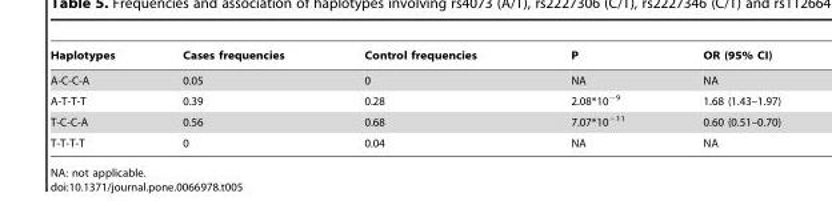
<table><thead><tr><td>Haplotypes</td><td>Cases frequencies</td><td>Control frequencies</td><td>P</td><td>OR (95% CI)</td></tr></thead><tbody><tr><td>A-C-C-A</td><td>0.05</td><td>0</td><td>NA</td><td>NA</td></tr><tr><td>A-T-T-T</td><td>0.39</td><td>0.28</td><td>2.08*10<sup>−9</sup></td><td>1.68 (1.43–1.97)</td></tr><tr><td>T-C-C-A</td><td>0.56</td><td>0.68</td><td>7.07*10<sup>−11</sup></td><td>0.60 (0.51–0.70)</td></tr><tr><td>T-T-T-T</td><td>0</td><td>0.04</td><td>NA</td><td>NA</td></tr></tbody></table>